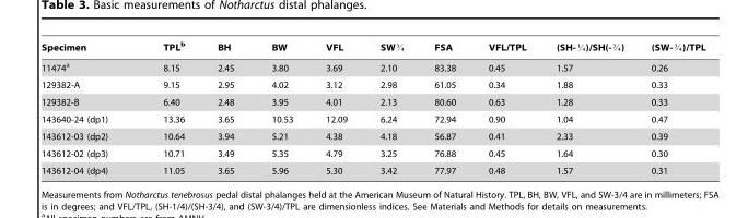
<table><thead><tr><td>Specimen</td><td>TPL<sup>b</sup></td><td>BH</td><td>BW</td><td>VFL</td><td>SWL</td><td>FSA</td><td>VFL/TPL</td><td>(SH-J)/SH(-L)</td><td>(SW-L)/TPL</td></tr></thead><tbody><tr><td>11474<sup>a</sup></td><td>8.15</td><td>2.45</td><td>3.80</td><td>3.69</td><td>2.10</td><td>83.38</td><td>0.45</td><td>1.57</td><td>0.26</td></tr><tr><td>129382-A</td><td>9.15</td><td>2.95</td><td>4.02</td><td>3.12</td><td>2.98</td><td>61.05</td><td>0.34</td><td>1.88</td><td>0.33</td></tr><tr><td>129382-B</td><td>6.40</td><td>2.48</td><td>3.95</td><td>4.01</td><td>2.13</td><td>80.60</td><td>0.63</td><td>1.28</td><td>0.33</td></tr><tr><td>143640-24 (dp1)</td><td>13.36</td><td>3.65</td><td>10.53</td><td>12.09</td><td>6.24</td><td>72.94</td><td>0.90</td><td>1.04</td><td>0.47</td></tr><tr><td>143612-03 (dp2)</td><td>10.64</td><td>3.94</td><td>5.21</td><td>4.38</td><td>4.18</td><td>56.87</td><td>0.41</td><td>2.33</td><td>0.39</td></tr><tr><td>143612-02 (dp3)</td><td>10.71</td><td>3.49</td><td>5.35</td><td>4.79</td><td>3.25</td><td>76.88</td><td>0.45</td><td>1.64</td><td>0.30</td></tr><tr><td>143612-04 (dp4)</td><td>11.05</td><td>3.65</td><td>5.96</td><td>5.30</td><td>3.42</td><td>77.97</td><td>0.48</td><td>1.57</td><td>0.31</td></tr></tbody></table>